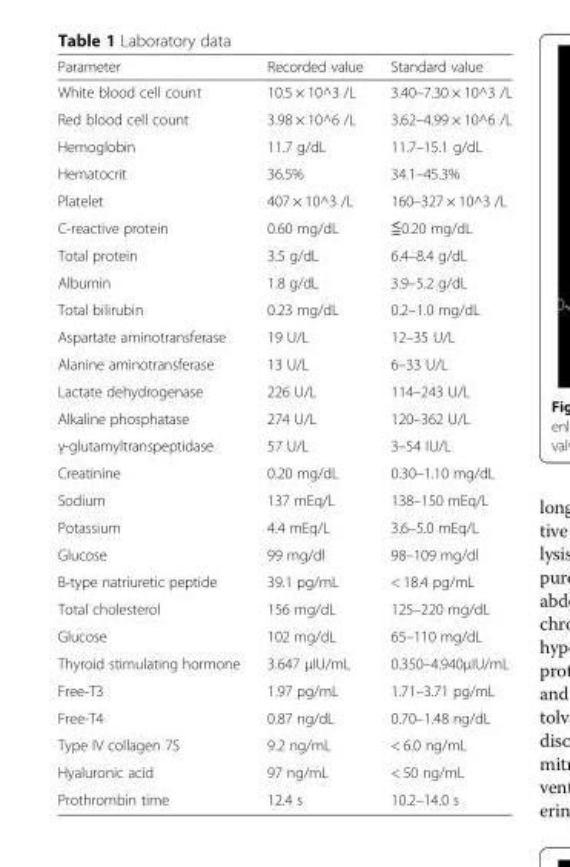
<table><thead><tr><td>Parameter</td><td>Recorded value</td><td>Standard value</td></tr></thead><tbody><tr><td>White blood cell count</td><td>10.5 × 10^3 /L</td><td>3.40–7.30 × 10^3 /L</td></tr><tr><td>Red blood cell count</td><td>3.98 × 10^6 /L</td><td>3.62–4.99 × 10^6 /L</td></tr><tr><td>Hemoglobin</td><td>11.7 g/dL</td><td>11.7–15.1 g/dL</td></tr><tr><td>Hematocrit</td><td>36.5%</td><td>34.1–45.3%</td></tr><tr><td>Platelet</td><td>407 × 10^3 /L</td><td>160–327 × 10^3 /L</td></tr><tr><td>C-reactive protein</td><td>0.60 mg/dL</td><td>≦0.20 mg/dL</td></tr><tr><td>Total protein</td><td>3.5 g/dL</td><td>6.4–8.4 g/dL</td></tr><tr><td>Albumin</td><td>1.8 g/dL</td><td>3.9–5.2 g/dL</td></tr><tr><td>Total bilirubin</td><td>0.23 mg/dL</td><td>0.2–1.0 mg/dL</td></tr><tr><td>Aspartate aminotransferase</td><td>19 U/L</td><td>12–35 U/L</td></tr><tr><td>Alanine aminotransferase</td><td>13 U/L</td><td>6–33 U/L</td></tr><tr><td>Lactate dehydrogenase</td><td>226 U/L</td><td>114–243 U/L</td></tr><tr><td>Alkaline phosphatase</td><td>274 U/L</td><td>120–362 U/L</td></tr><tr><td>γ-glutamyltranspeptidase</td><td>57 U/L</td><td>3–54 IU/L</td></tr><tr><td>Creatinine</td><td>0.20 mg/dL</td><td>0.30–1.10 mg/dL</td></tr><tr><td>Sodium</td><td>137 mEq/L</td><td>138–150 mEq/L</td></tr><tr><td>Potassium</td><td>4.4 mEq/L</td><td>3.6–5.0 mEq/L</td></tr><tr><td>Glucose</td><td>99 mg/dl</td><td>98–109 mg/dl</td></tr><tr><td>B-type natriuretic peptide</td><td>39.1 pg/mL</td><td>&lt; 18.4 pg/mL</td></tr><tr><td>Total cholesterol</td><td>156 mg/dL</td><td>125–220 mg/dL</td></tr><tr><td>Glucose</td><td>102 mg/dL</td><td>65–110 mg/dL</td></tr><tr><td>Thyroid stimulating hormone</td><td>3.647 μIU/mL</td><td>0.350–4.940μIU/mL</td></tr><tr><td>Free-T3</td><td>1.97 pg/mL</td><td>1.71–3.71 pg/mL</td></tr><tr><td>Free-T4</td><td>0.87 ng/dL</td><td>0.70–1.48 ng/dL</td></tr><tr><td>Type IV collagen 7S</td><td>9.2 ng/mL</td><td>&lt; 6.0 ng/mL</td></tr><tr><td>Hyaluronic acid</td><td>97 ng/mL</td><td>&lt; 50 ng/mL</td></tr><tr><td>Prothrombin time</td><td>12.4 s</td><td>10.2–14.0 s</td></tr></tbody></table>